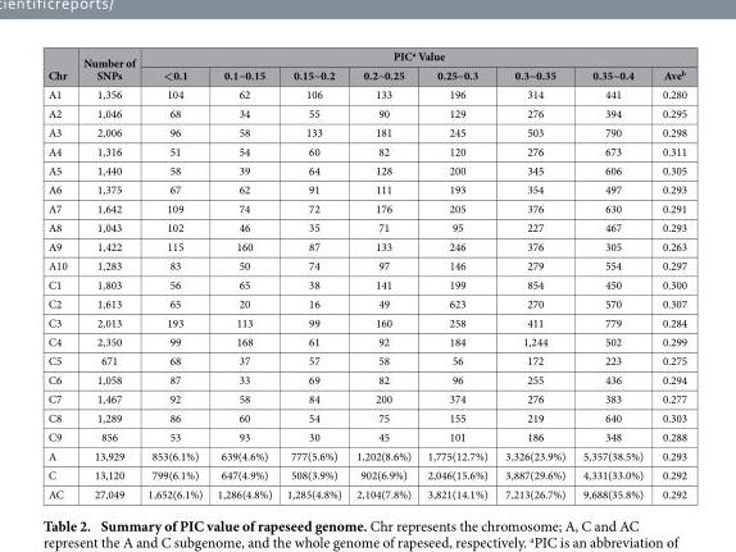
<table><thead><tr><td rowspan="2">Chr</td><td rowspan="2">Number of SNPs</td><td colspan="8">PIC<sup>a</sup> Value</td></tr><tr><td>&lt;0.1</td><td>0.1~0.15</td><td>0.15~0.2</td><td>0.2~0.25</td><td>0.25~0.3</td><td>0.3~0.35</td><td>0.35~0.4</td><td>Ave<sup>b</sup></td></tr></thead><tbody><tr><td>A1</td><td>1,356</td><td>104</td><td>62</td><td>106</td><td>133</td><td>196</td><td>314</td><td>441</td><td>0.280</td></tr><tr><td>A2</td><td>1,046</td><td>68</td><td>34</td><td>55</td><td>90</td><td>129</td><td>276</td><td>394</td><td>0.295</td></tr><tr><td>A3</td><td>2,006</td><td>96</td><td>58</td><td>133</td><td>181</td><td>245</td><td>503</td><td>790</td><td>0.298</td></tr><tr><td>A4</td><td>1,316</td><td>51</td><td>54</td><td>60</td><td>82</td><td>120</td><td>276</td><td>673</td><td>0.311</td></tr><tr><td>A5</td><td>1,440</td><td>58</td><td>39</td><td>64</td><td>128</td><td>200</td><td>345</td><td>606</td><td>0.305</td></tr><tr><td>A6</td><td>1,375</td><td>67</td><td>62</td><td>91</td><td>111</td><td>193</td><td>354</td><td>497</td><td>0.293</td></tr><tr><td>A7</td><td>1,642</td><td>109</td><td>74</td><td>72</td><td>176</td><td>205</td><td>376</td><td>630</td><td>0.291</td></tr><tr><td>A8</td><td>1,043</td><td>102</td><td>46</td><td>35</td><td>71</td><td>95</td><td>227</td><td>467</td><td>0.293</td></tr><tr><td>A9</td><td>1,422</td><td>115</td><td>160</td><td>87</td><td>133</td><td>246</td><td>376</td><td>305</td><td>0.263</td></tr><tr><td>A10</td><td>1,283</td><td>83</td><td>50</td><td>74</td><td>97</td><td>146</td><td>279</td><td>554</td><td>0.297</td></tr><tr><td>C1</td><td>1,803</td><td>56</td><td>65</td><td>38</td><td>141</td><td>199</td><td>854</td><td>450</td><td>0.300</td></tr><tr><td>C2</td><td>1,613</td><td>65</td><td>20</td><td>16</td><td>49</td><td>623</td><td>270</td><td>570</td><td>0.307</td></tr><tr><td>C3</td><td>2,013</td><td>193</td><td>113</td><td>99</td><td>160</td><td>258</td><td>411</td><td>779</td><td>0.284</td></tr><tr><td>C4</td><td>2,350</td><td>99</td><td>168</td><td>61</td><td>92</td><td>184</td><td>1,244</td><td>502</td><td>0.299</td></tr><tr><td>C5</td><td>671</td><td>68</td><td>37</td><td>57</td><td>58</td><td>56</td><td>172</td><td>223</td><td>0.275</td></tr><tr><td>C6</td><td>1,058</td><td>87</td><td>33</td><td>69</td><td>82</td><td>96</td><td>255</td><td>436</td><td>0.294</td></tr><tr><td>C7</td><td>1,467</td><td>92</td><td>58</td><td>84</td><td>200</td><td>374</td><td>276</td><td>383</td><td>0.277</td></tr><tr><td>C8</td><td>1,289</td><td>86</td><td>60</td><td>54</td><td>75</td><td>155</td><td>219</td><td>640</td><td>0.303</td></tr><tr><td>C9</td><td>856</td><td>53</td><td>93</td><td>30</td><td>45</td><td>101</td><td>186</td><td>348</td><td>0.288</td></tr><tr><td>A</td><td>13,929</td><td>853(6.1%)</td><td>639(4.6%)</td><td>777(5.6%)</td><td>1,202(8.6%)</td><td>1,775(12.7%)</td><td>3,326(23.9%)</td><td>5,357(38.5%)</td><td>0.293</td></tr><tr><td>C</td><td>13,120</td><td>799(6.1%)</td><td>647(4.9%)</td><td>508(3.9%)</td><td>902(6.9%)</td><td>2,046(15.6%)</td><td>3,887(29.6%)</td><td>4,331(33.0%)</td><td>0.292</td></tr><tr><td>AC</td><td>27,049</td><td>1,652(6.1%)</td><td>1,286(4.8%)</td><td>1,285(4.8%)</td><td>2,104(7.8%)</td><td>3,821(14.1%)</td><td>7,213(26.7%)</td><td>9,688(35.8%)</td><td>0.292</td></tr></tbody></table>